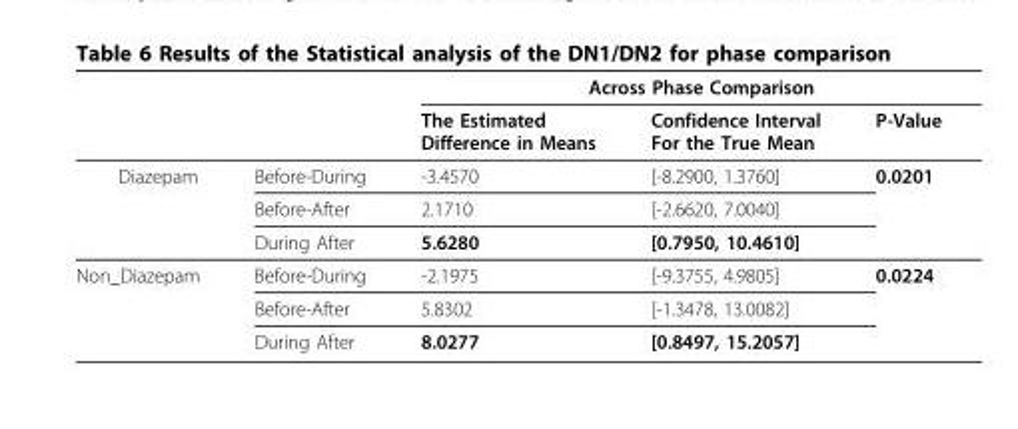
<table><thead><tr><td rowspan="2"></td><td rowspan="2"></td><td colspan="3">Across Phase Comparison</td></tr><tr><td>The Estimated Difference in Means</td><td>Confidence Interval For the True Mean</td><td>P-Value</td></tr></thead><tbody><tr><td rowspan="3">Diazepam</td><td>Before-During</td><td>-3.4570</td><td>[-8.2900, 1.3760]</td><td>0.0201</td></tr><tr><td>Before-After</td><td>2.1710</td><td>[-2.6620, 7.0040]</td><td></td></tr><tr><td>During After</td><td>5.6280</td><td>[0.7950, 10.4610]</td><td></td></tr><tr><td rowspan="3">Non_Diazepam</td><td>Before-During</td><td>-2.1975</td><td>[-9.3755, 4.9805]</td><td>0.0224</td></tr><tr><td>Before-After</td><td>5.8302</td><td>[-1.3478, 13.0082]</td><td></td></tr><tr><td>During After</td><td>8.0277</td><td>[0.8497, 15.2057]</td><td></td></tr></tbody></table>